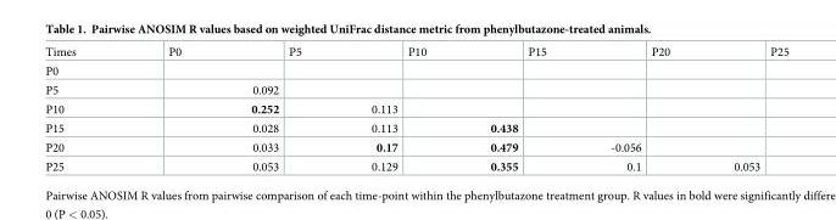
<table><tbody><tr><td>Times</td><td>P0</td><td>P5</td><td>P10</td><td>P15</td><td>P20</td><td>P25</td></tr><tr><td colspan="7">P0</td></tr><tr><td>P5</td><td>0.092</td><td></td><td></td><td></td><td></td><td></td></tr><tr><td>P10</td><td>0.252</td><td>0.113</td><td></td><td></td><td></td><td></td></tr><tr><td>P15</td><td>0.028</td><td>0.113</td><td>0.438</td><td></td><td></td><td></td></tr><tr><td>P20</td><td>0.033</td><td>0.17</td><td>0.479</td><td>-0.056</td><td></td><td></td></tr><tr><td>P25</td><td>0.053</td><td>0.129</td><td>0.355</td><td>0.1</td><td>0.053</td><td></td></tr></tbody></table>